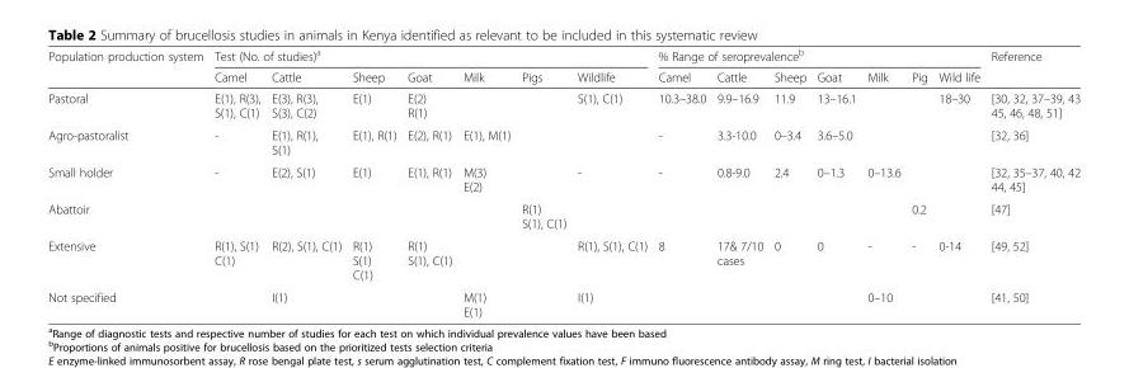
<table><thead><tr><td rowspan="2">Population production system</td><td colspan="7">Test (No. of studies)<sup>a</sup></td><td colspan="7">% Range of seroprevalence<sup>b</sup></td><td rowspan="2">Reference</td></tr><tr><td>Camel</td><td>Cattle</td><td>Sheep</td><td>Goat</td><td>Milk</td><td>Pigs</td><td>Wildlife</td><td>Camel</td><td>Cattle</td><td>Sheep</td><td>Goat</td><td>Milk</td><td>Pig</td><td>Wild life</td></tr></thead><tbody><tr><td>Pastoral</td><td>E(1), R(3), S(1), C(1)</td><td>E(3), R(3), S(3), C(2)</td><td>E(1)</td><td>E(2) R(1)</td><td></td><td></td><td>S(1), C(1)</td><td>10.3–38.0</td><td>9.9–16.9</td><td>11.9</td><td>13–16.1</td><td></td><td></td><td>18–30</td><td>[30, 32, 37–39, 43 45, 46, 48, 51]</td></tr><tr><td>Agro-pastoralist</td><td>-</td><td>E(1), R(1), S(1)</td><td>E(1), R(1)</td><td>E(2), R(1)</td><td>E(1), M(1)</td><td></td><td></td><td>-</td><td>3.3-10.0</td><td>0–3.4</td><td>3.6–5.0</td><td></td><td></td><td></td><td>[32, 36]</td></tr><tr><td>Small holder</td><td>-</td><td>E(2), S(1)</td><td>E(1)</td><td>E(1), R(1)</td><td>M(3) E(2)</td><td></td><td>-</td><td>-</td><td>0.8-9.0</td><td>2.4</td><td>0–1.3</td><td>0–13.6</td><td></td><td></td><td>[32, 35–37, 40, 42 44, 45]</td></tr><tr><td>Abattoir</td><td></td><td></td><td></td><td></td><td></td><td>R(1) S(1), C(1)</td><td></td><td></td><td></td><td></td><td></td><td></td><td>0.2</td><td></td><td>[47]</td></tr><tr><td>Extensive</td><td>R(1), S(1) C(1)</td><td>R(2), S(1), C(1)</td><td>R(1) S(1) C(1)</td><td>R(1) S(1), C(1)</td><td></td><td></td><td>R(1), S(1), C(1)</td><td>8</td><td>17&amp; 7/10 cases</td><td>0</td><td>0</td><td>-</td><td>-</td><td>0-14</td><td>[49, 52]</td></tr><tr><td>Not specified</td><td></td><td>I(1)</td><td></td><td></td><td>M(1) E(1)</td><td></td><td>I(1)</td><td></td><td></td><td></td><td></td><td>0–10</td><td></td><td></td><td>[41, 50]</td></tr></tbody></table>